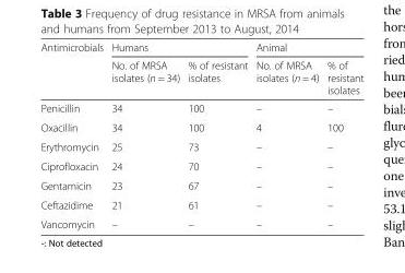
<table><thead><tr><td rowspan="2">Antimicrobials</td><td colspan="2">Humans</td><td colspan="2">Animal</td></tr><tr><td>No. of MRSA isolates (n = 34)</td><td>% of resistant isolates</td><td>No. of MRSA isolates (n = 4)</td><td>% of resistant isolates</td></tr></thead><tbody><tr><td>Penicillin</td><td>34</td><td>100</td><td>–</td><td>–</td></tr><tr><td>Oxacillin</td><td>34</td><td>100</td><td>4</td><td>100</td></tr><tr><td>Erythromycin</td><td>25</td><td>73</td><td>–</td><td>–</td></tr><tr><td>Ciprofloxacin</td><td>24</td><td>70</td><td>–</td><td>–</td></tr><tr><td>Gentamicin</td><td>23</td><td>67</td><td>–</td><td>–</td></tr><tr><td>Ceftazidime</td><td>21</td><td>61</td><td>–</td><td>–</td></tr><tr><td>Vancomycin</td><td>–</td><td>–</td><td>–</td><td>–</td></tr></tbody></table>